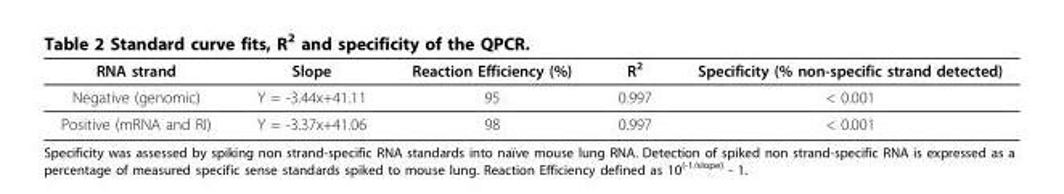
<table><thead><tr><td>RNA strand</td><td>Slope</td><td>Reaction Efficiency (%)</td><td>R<sup>2</sup></td><td>Specificity (% non-specific strand detected)</td></tr></thead><tbody><tr><td>Negative (genomic)</td><td>Y = -3.44x+41.11</td><td>95</td><td>0.997</td><td>&lt; 0.001</td></tr><tr><td>Positive (mRNA and RI)</td><td>Y = -3.37x+41.06</td><td>98</td><td>0.997</td><td>&lt; 0.001</td></tr></tbody></table>